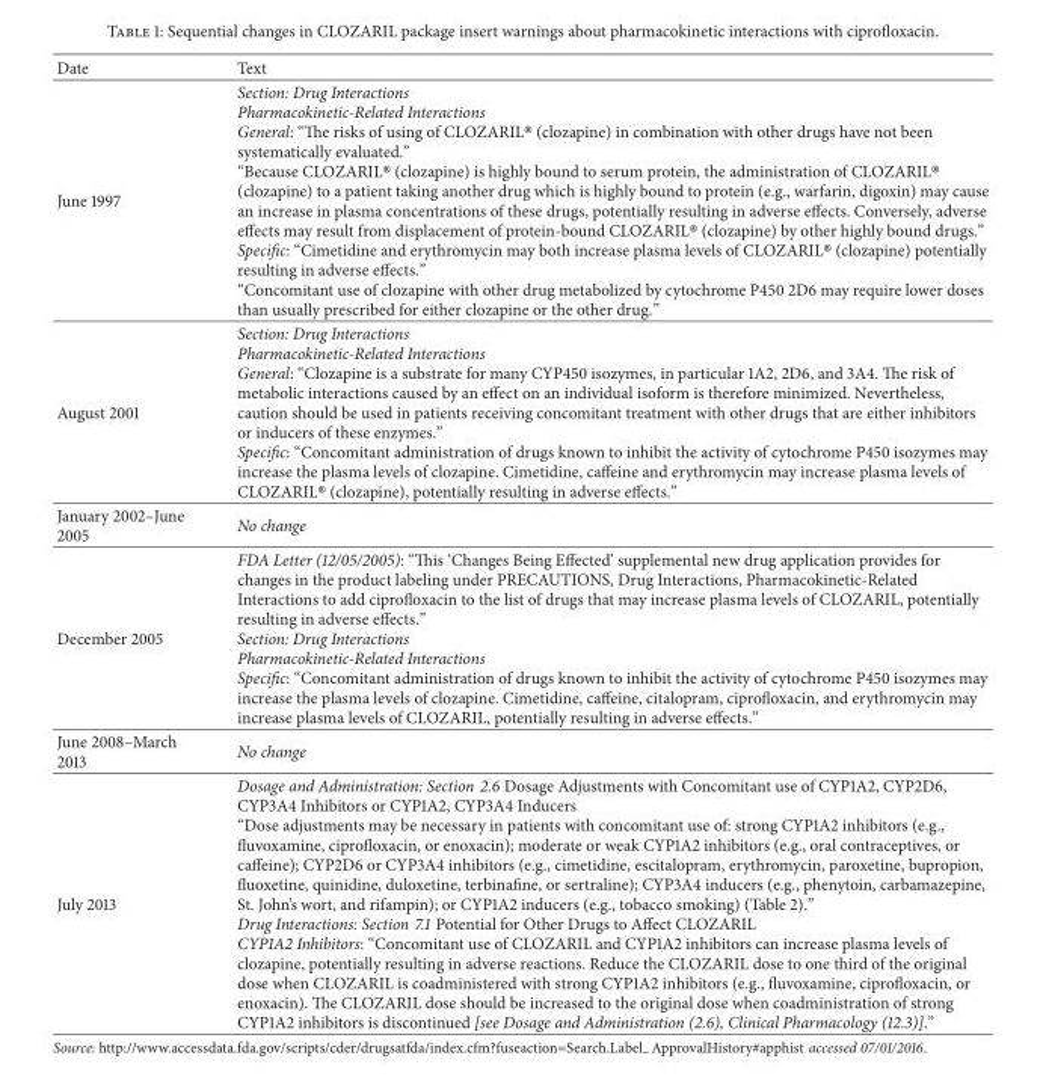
<table><thead><tr><td>Date</td><td>Text</td></tr></thead><tbody><tr><td>June 1997</td><td>Section: Drug Interactions Pharmacokinetic-Related Interactions General: “The risks of using of CLOZARIL® (clozapine) in combination with other drugs have not been systematically evaluated.” “Because CLOZARIL® (clozapine) is highly bound to serum protein, the administration of CLOZARIL® (clozapine) to a patient taking another drug which is highly bound to protein (e.g., warfarin, digoxin) may cause an increase in plasma concentrations of these drugs, potentially resulting in adverse effects. Conversely, adverse effects may result from displacement of protein-bound CLOZARIL® (clozapine) by other highly bound drugs.” Specific: “Cimetidine and erythromycin may both increase plasma levels of CLOZARIL® (clozapine) potentially resulting in adverse effects.” “Concomitant use of clozapine with other drug metabolized by cytochrome P450 2D6 may require lower doses than usually prescribed for either clozapine or the other drug.”</td></tr><tr><td>August 2001</td><td>Section: Drug Interactions Pharmacokinetic-Related Interactions General: “Clozapine is a substrate for many CYP450 isozymes, in particular 1A2, 2D6, and 3A4. The risk of metabolic interactions caused by an effect on an individual isoform is therefore minimized. Nevertheless, caution should be used in patients receiving concomitant treatment with other drugs that are either inhibitors or inducers of these enzymes.” Specific: “Concomitant administration of drugs known to inhibit the activity of cytochrome P450 isozymes may increase the plasma levels of clozapine. Cimetidine, caffeine and erythromycin may increase plasma levels of CLOZARIL® (clozapine), potentially resulting in adverse effects.”</td></tr><tr><td>January 2002–June 2005</td><td>No change</td></tr><tr><td>December 2005</td><td>FDA Letter (12/05/2005): “This ‘Changes Being Effected’ supplemental new drug application provides for changes in the product labeling under PRECAUTIONS, Drug Interactions, Pharmacokinetic-Related Interactions to add ciprofloxacin to the list of drugs that may increase plasma levels of CLOZARIL, potentially resulting in adverse effects.” Section: Drug Interactions Pharmacokinetic-Related Interactions Specific: “Concomitant administration of drugs known to inhibit the activity of cytochrome P450 isozymes may increase the plasma levels of clozapine. Cimetidine, caffeine, citalopram, ciprofloxacin, and erythromycin may increase plasma levels of CLOZARIL, potentially resulting in adverse effects.”</td></tr><tr><td>June 2008–March 2013</td><td>No change</td></tr><tr><td>July 2013</td><td>Dosage and Administration: Section 2.6 Dosage Adjustments with Concomitant use of CYP1A2, CYP2D6, CYP3A4 Inhibitors or CYP1A2, CYP3A4 Inducers “Dose adjustments may be necessary in patients with concomitant use of: strong CYP1A2 inhibitors (e.g., fluvoxamine, ciprofloxacin, or enoxacin); moderate or weak CYP1A2 inhibitors (e.g., oral contraceptives, or caffeine); CYP2D6 or CYP3A4 inhibitors (e.g., cimetidine, escitalopram, erythromycin, paroxetine, bupropion, fluoxetine, quinidine, duloxetine, terbinafine, or sertraline); CYP3A4 inducers (e.g., phenytoin, carbamazepine, St. John’s wort, and rifampin); or CYP1A2 inducers (e.g., tobacco smoking) (Table 2).” Drug Interactions: Section 7.1 Potential for Other Drugs to Affect CLOZARIL CYP1A2 Inhibitors: “Concomitant use of CLOZARIL and CYP1A2 inhibitors can increase plasma levels of clozapine, potentially resulting in adverse reactions. Reduce the CLOZARIL dose to one third of the original dose when CLOZARIL is coadministered with strong CYP1A2 inhibitors (e.g., fluvoxamine, ciprofloxacin, or enoxacin). The CLOZARIL dose should be increased to the original dose when coadministration of strong CYP1A2 inhibitors is discontinued [see Dosage and Administration (2.6), Clinical Pharmacology (12.3)].”</td></tr></tbody></table>